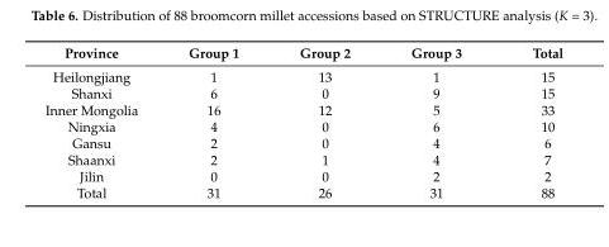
<table><thead><tr><td>Province</td><td>Group 1</td><td>Group 2</td><td>Group 3</td><td>Total</td></tr></thead><tbody><tr><td>Heilongjiang</td><td>1</td><td>13</td><td>1</td><td>15</td></tr><tr><td>Shanxi</td><td>6</td><td>0</td><td>9</td><td>15</td></tr><tr><td>Inner Mongolia</td><td>16</td><td>12</td><td>5</td><td>33</td></tr><tr><td>Ningxia</td><td>4</td><td>0</td><td>6</td><td>10</td></tr><tr><td>Gansu</td><td>2</td><td>0</td><td>4</td><td>6</td></tr><tr><td>Shaanxi</td><td>2</td><td>1</td><td>4</td><td>7</td></tr><tr><td>Jilin</td><td>0</td><td>0</td><td>2</td><td>2</td></tr><tr><td>Total</td><td>31</td><td>26</td><td>31</td><td>88</td></tr></tbody></table>